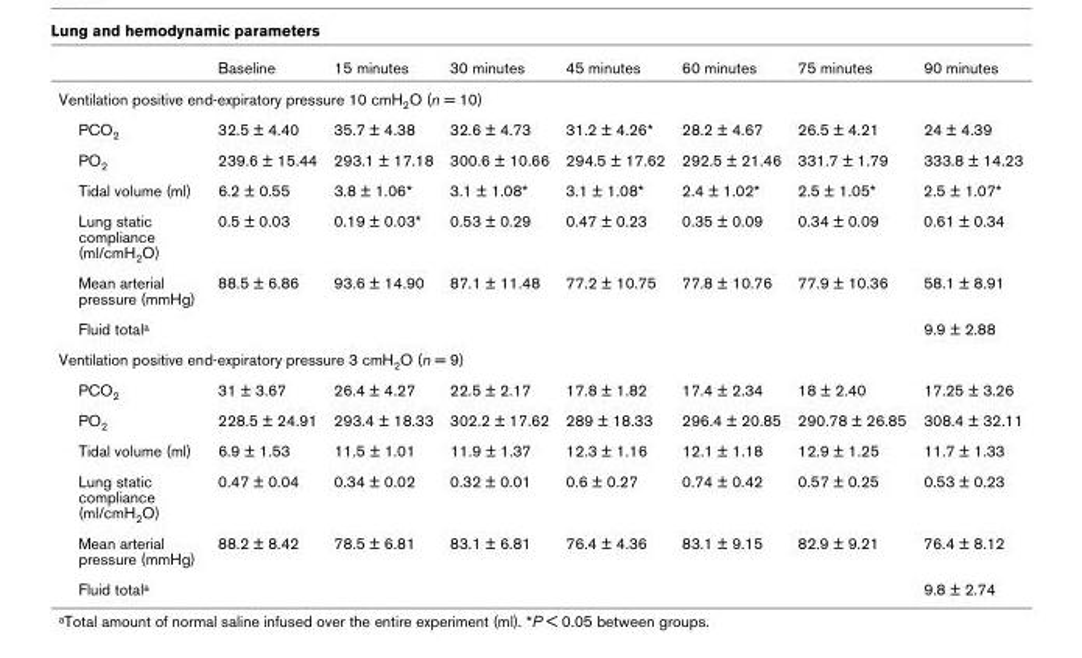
<table><thead><tr><td></td><td>Baseline</td><td>15 minutes</td><td>30 minutes</td><td>45 minutes</td><td>60 minutes</td><td>75 minutes</td><td>90 minutes</td></tr></thead><tbody><tr><td colspan="8">Ventilation positive end-expiratory pressure 10 cmH<sub>2</sub>O (n = 10)</td></tr><tr><td>PCO<sub>2</sub></td><td>32.5 ± 4.40</td><td>35.7 ± 4.38</td><td>32.6 ± 4.73</td><td>31.2 ± 4.26*</td><td>28.2 ± 4.67</td><td>26.5 ± 4.21</td><td>24 ± 4.39</td></tr><tr><td>PO<sub>2</sub></td><td>239.6 ± 15.44</td><td>293.1 ± 17.18</td><td>300.6 ± 10.66</td><td>294.5 ± 17.62</td><td>292.5 ± 21.46</td><td>331.7 ± 1.79</td><td>333.8 ± 14.23</td></tr><tr><td>Tidal volume (ml)</td><td>6.2 ± 0.55</td><td>3.8 ± 1.06*</td><td>3.1 ± 1.08*</td><td>3.1 ± 1.08*</td><td>2.4 ± 1.02*</td><td>2.5 ± 1.05*</td><td>2.5 ± 1.07*</td></tr><tr><td>Lung static compliance (ml/cmH<sub>2</sub>O)</td><td>0.5 ± 0.03</td><td>0.19 ± 0.03*</td><td>0.53 ± 0.29</td><td>0.47 ± 0.23</td><td>0.35 ± 0.09</td><td>0.34 ± 0.09</td><td>0.61 ± 0.34</td></tr><tr><td>Mean arterial pressure (mmHg)</td><td>88.5 ± 6.86</td><td>93.6 ± 14.90</td><td>87.1 ± 11.48</td><td>77.2 ± 10.75</td><td>77.8 ± 10.76</td><td>77.9 ± 10.36</td><td>58.1 ± 8.91</td></tr><tr><td>Fluid total<sup>a</sup></td><td></td><td></td><td></td><td></td><td></td><td></td><td>9.9 ± 2.88</td></tr><tr><td colspan="8">Ventilation positive end-expiratory pressure 3 cmH<sub>2</sub>O (n = 9)</td></tr><tr><td>PCO<sub>2</sub></td><td>31 ± 3.67</td><td>26.4 ± 4.27</td><td>22.5 ± 2.17</td><td>17.8 ± 1.82</td><td>17.4 ± 2.34</td><td>18 ± 2.40</td><td>17.25 ± 3.26</td></tr><tr><td>PO<sub>2</sub></td><td>228.5 ± 24.91</td><td>293.4 ± 18.33</td><td>302.2 ± 17.62</td><td>289 ± 18.33</td><td>296.4 ± 20.85</td><td>290.78 ± 26.85</td><td>308.4 ± 32.11</td></tr><tr><td>Tidal volume (ml)</td><td>6.9 ± 1.53</td><td>11.5 ± 1.01</td><td>11.9 ± 1.37</td><td>12.3 ± 1.16</td><td>12.1 ± 1.18</td><td>12.9 ± 1.25</td><td>11.7 ± 1.33</td></tr><tr><td>Lung static compliance (ml/cmH<sub>2</sub>O)</td><td>0.47 ± 0.04</td><td>0.34 ± 0.02</td><td>0.32 ± 0.01</td><td>0.6 ± 0.27</td><td>0.74 ± 0.42</td><td>0.57 ± 0.25</td><td>0.53 ± 0.23</td></tr><tr><td>Mean arterial pressure (mmHg)</td><td>88.2 ± 8.42</td><td>78.5 ± 6.81</td><td>83.1 ± 6.81</td><td>76.4 ± 4.36</td><td>83.1 ± 9.15</td><td>82.9 ± 9.21</td><td>76.4 ± 8.12</td></tr><tr><td>Fluid total<sup>a</sup></td><td></td><td></td><td></td><td></td><td></td><td></td><td>9.8 ± 2.74</td></tr></tbody></table>